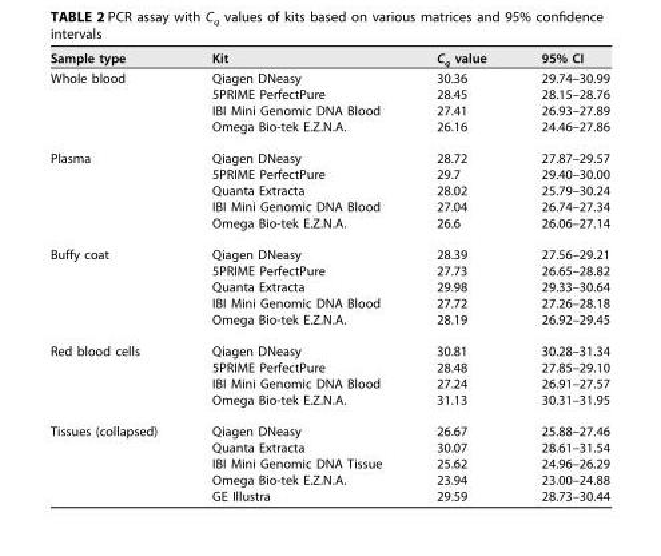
<table><thead><tr><td>Sample type</td><td>Kit</td><td>C<sub>q</sub> value</td><td>95% CI</td></tr></thead><tbody><tr><td rowspan="4">Whole blood</td><td>Qiagen DNeasy</td><td>30.36</td><td>29.74–30.99</td></tr><tr><td>5PRIME PerfectPure</td><td>28.45</td><td>28.15–28.76</td></tr><tr><td>IBI Mini Genomic DNA Blood</td><td>27.41</td><td>26.93–27.89</td></tr><tr><td>Omega Bio-tek E.Z.N.A.</td><td>26.16</td><td>24.46–27.86</td></tr><tr><td rowspan="5">Plasma</td><td>Qiagen DNeasy</td><td>28.72</td><td>27.87–29.57</td></tr><tr><td>5PRIME PerfectPure</td><td>29.7</td><td>29.40–30.00</td></tr><tr><td>Quanta Extracta</td><td>28.02</td><td>25.79–30.24</td></tr><tr><td>IBI Mini Genomic DNA Blood</td><td>27.04</td><td>26.74–27.34</td></tr><tr><td>Omega Bio-tek E.Z.N.A.</td><td>26.6</td><td>26.06–27.14</td></tr><tr><td rowspan="5">Buffy coat</td><td>Qiagen DNeasy</td><td>28.39</td><td>27.56–29.21</td></tr><tr><td>5PRIME PerfectPure</td><td>27.73</td><td>26.65–28.82</td></tr><tr><td>Quanta Extracta</td><td>29.98</td><td>29.33–30.64</td></tr><tr><td>IBI Mini Genomic DNA Blood</td><td>27.72</td><td>27.26–28.18</td></tr><tr><td>Omega Bio-tek E.Z.N.A.</td><td>28.19</td><td>26.92–29.45</td></tr><tr><td rowspan="4">Red blood cells</td><td>Qiagen DNeasy</td><td>30.81</td><td>30.28–31.34</td></tr><tr><td>5PRIME PerfectPure</td><td>28.48</td><td>27.85–29.10</td></tr><tr><td>IBI Mini Genomic DNA Blood</td><td>27.24</td><td>26.91–27.57</td></tr><tr><td>Omega Bio-tek E.Z.N.A.</td><td>31.13</td><td>30.31–31.95</td></tr><tr><td rowspan="5">Tissues (collapsed)</td><td>Qiagen DNeasy</td><td>26.67</td><td>25.88–27.46</td></tr><tr><td>Quanta Extracta</td><td>30.07</td><td>28.61–31.54</td></tr><tr><td>IBI Mini Genomic DNA Tissue</td><td>25.62</td><td>24.96–26.29</td></tr><tr><td>Omega Bio-tek E.Z.N.A.</td><td>23.94</td><td>23.00–24.88</td></tr><tr><td>GE Illustra</td><td>29.59</td><td>28.73–30.44</td></tr></tbody></table>